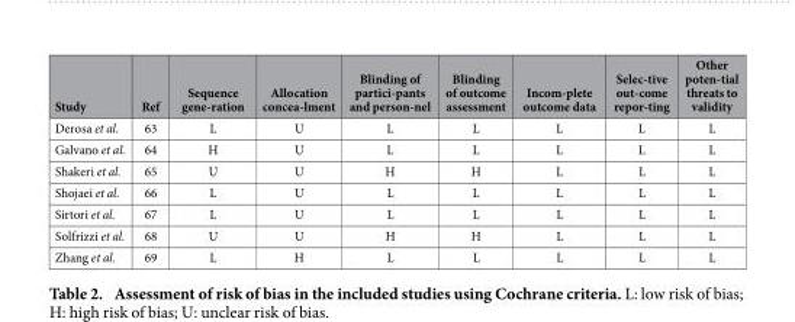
<table><thead><tr><td>Study</td><td>Ref</td><td>Sequence gene-ration</td><td>Allocation concea-lment</td><td>Blinding of partici-pants and person-nel</td><td>Blinding of outcome assessment</td><td>Incom-plete outcome data</td><td>Selec-tive out-come repor-ting</td><td>Other poten-tial threats to validity</td></tr></thead><tbody><tr><td>Derosa et al.</td><td>63</td><td>L</td><td>U</td><td>L</td><td>L</td><td>L</td><td>L</td><td>L</td></tr><tr><td>Galvano et al.</td><td>64</td><td>H</td><td>U</td><td>L</td><td>L</td><td>L</td><td>L</td><td>L</td></tr><tr><td>Shakeri et al.</td><td>65</td><td>U</td><td>U</td><td>H</td><td>H</td><td>L</td><td>L</td><td>L</td></tr><tr><td>Shojaei et al.</td><td>66</td><td>L</td><td>U</td><td>L</td><td>L</td><td>L</td><td>L</td><td>L</td></tr><tr><td>Sirtori et al.</td><td>67</td><td>L</td><td>U</td><td>L</td><td>L</td><td>L</td><td>L</td><td>L</td></tr><tr><td>Solfrizzi et al.</td><td>68</td><td>U</td><td>U</td><td>H</td><td>H</td><td>L</td><td>L</td><td>L</td></tr><tr><td>Zhang et al.</td><td>69</td><td>L</td><td>H</td><td>L</td><td>L</td><td>L</td><td>L</td><td>L</td></tr></tbody></table>